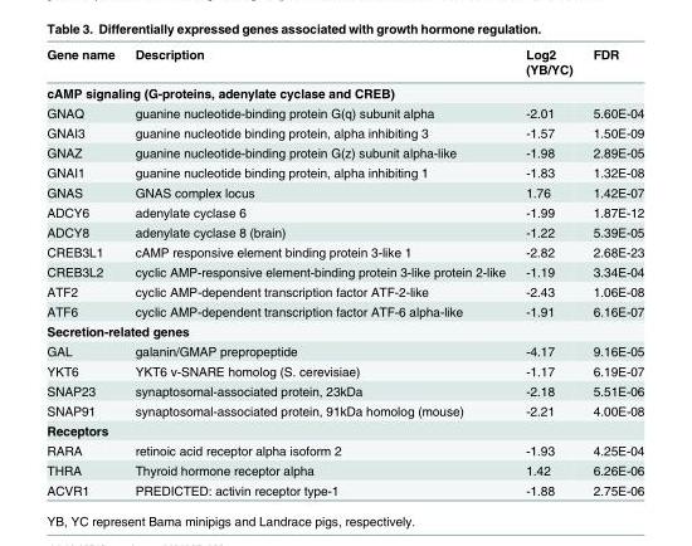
<table><thead><tr><td>Gene name</td><td>Description</td><td>Log2 (YB/YC)</td><td>FDR</td></tr></thead><tbody><tr><td colspan="4">cAMP signaling (G-proteins, adenylate cyclase and CREB)</td></tr><tr><td>GNAQ</td><td>guanine nucleotide-binding protein G(q) subunit alpha</td><td>-2.01</td><td>5.60E-04</td></tr><tr><td>GNAI3</td><td>guanine nucleotide binding protein, alpha inhibiting 3</td><td>-1.57</td><td>1.50E-09</td></tr><tr><td>GNAZ</td><td>guanine nucleotide-binding protein G(z) subunit alpha-like</td><td>-1.98</td><td>2.89E-05</td></tr><tr><td>GNAI1</td><td>guanine nucleotide binding protein, alpha inhibiting 1</td><td>-1.83</td><td>1.32E-08</td></tr><tr><td>GNAS</td><td>GNAS complex locus</td><td>1.76</td><td>1.42E-07</td></tr><tr><td>ADCY6</td><td>adenylate cyclase 6</td><td>-1.99</td><td>1.87E-12</td></tr><tr><td>ADCY8</td><td>adenylate cyclase 8 (brain)</td><td>-1.22</td><td>5.39E-05</td></tr><tr><td>CREB3L1</td><td>cAMP responsive element binding protein 3-like 1</td><td>-2.82</td><td>2.68E-23</td></tr><tr><td>CREB3L2</td><td>cyclic AMP-responsive element-binding protein 3-like protein 2-like</td><td>-1.19</td><td>3.34E-04</td></tr><tr><td>ATF2</td><td>cyclic AMP-dependent transcription factor ATF-2-like</td><td>-2.43</td><td>1.06E-08</td></tr><tr><td>ATF6</td><td>cyclic AMP-dependent transcription factor ATF-6 alpha-like</td><td>-1.91</td><td>6.16E-07</td></tr><tr><td colspan="4">Secretion-related genes</td></tr><tr><td>GAL</td><td>galanin/GMAP prepropeptide</td><td>-4.17</td><td>9.16E-05</td></tr><tr><td>YKT6</td><td>YKT6 v-SNARE homolog (S. cerevisiae)</td><td>-1.17</td><td>6.19E-07</td></tr><tr><td>SNAP23</td><td>synaptosomal-associated protein, 23kDa</td><td>-2.18</td><td>5.51E-06</td></tr><tr><td>SNAP91</td><td>synaptosomal-associated protein, 91kDa homolog (mouse)</td><td>-2.21</td><td>4.00E-08</td></tr><tr><td colspan="4">Receptors</td></tr><tr><td>RARA</td><td>retinoic acid receptor alpha isoform 2</td><td>-1.93</td><td>4.25E-04</td></tr><tr><td>THRA</td><td>Thyroid hormone receptor alpha</td><td>1.42</td><td>6.26E-06</td></tr><tr><td>ACVR1</td><td>PREDICTED: activin receptor type-1</td><td>-1.88</td><td>2.75E-06</td></tr></tbody></table>